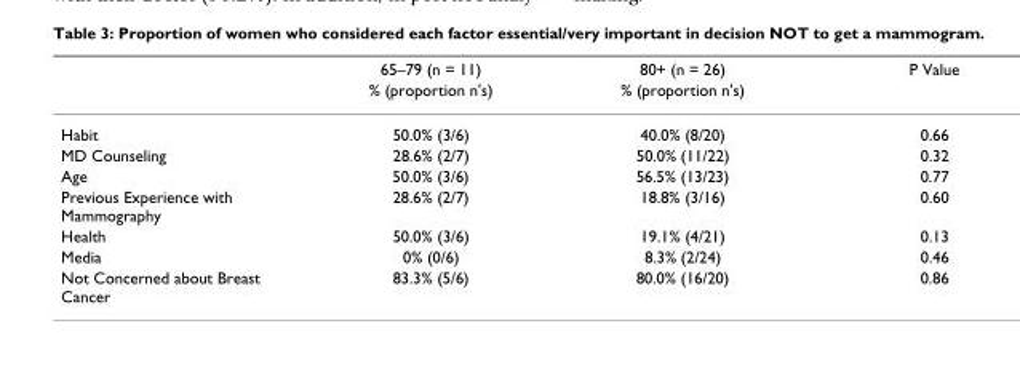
<table><thead><tr><td rowspan="2"></td><td rowspan="2">65–79 (n = 11) % (proportion n&#x27;s)</td><td rowspan="2">80+ (n = 26) % (proportion n&#x27;s)</td><td rowspan="2">P Value</td></tr><tr></tr></thead><tbody><tr><td>Habit</td><td>50.0% (3/6)</td><td>40.0% (8/20)</td><td>0.66</td></tr><tr><td>MD Counseling</td><td>28.6% (2/7)</td><td>50.0% (11/22)</td><td>0.32</td></tr><tr><td>Age</td><td>50.0% (3/6)</td><td>56.5% (13/23)</td><td>0.77</td></tr><tr><td>Previous Experience with Mammography</td><td>28.6% (2/7)</td><td>18.8% (3/16)</td><td>0.60</td></tr><tr><td>Health</td><td>50.0% (3/6)</td><td>19.1% (4/21)</td><td>0.13</td></tr><tr><td>Media</td><td>0% (0/6)</td><td>8.3% (2/24)</td><td>0.46</td></tr><tr><td>Not Concerned about Breast Cancer</td><td>83.3% (5/6)</td><td>80.0% (16/20)</td><td>0.86</td></tr></tbody></table>